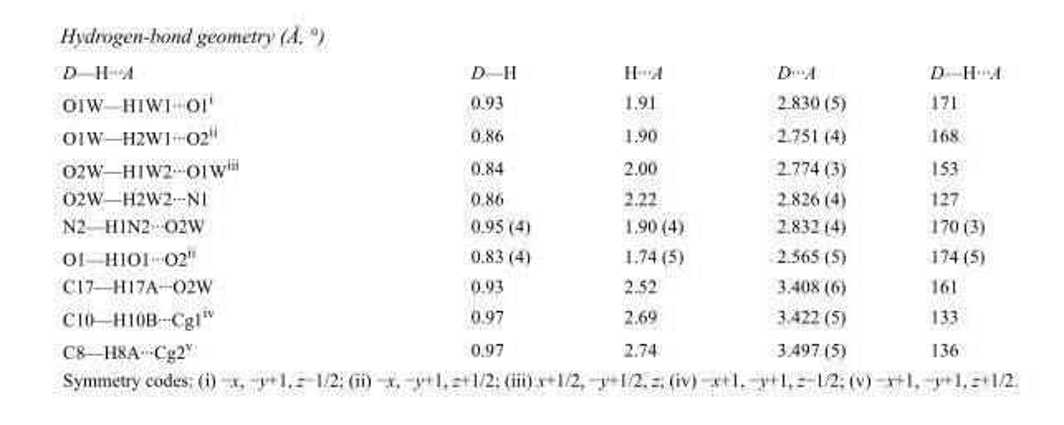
<table><tbody><tr><td>D—H···A</td><td>D—H</td><td>H···A</td><td>D···A</td><td>D—H···A</td></tr><tr><td>O1W—H1W1···O1<sup>i</sup></td><td>0.93</td><td>1.91</td><td>2.830 (5)</td><td>171</td></tr><tr><td>O1W—H2W1···O2<sup>ii</sup></td><td>0.86</td><td>1.90</td><td>2.751 (4)</td><td>168</td></tr><tr><td>O2W—H1W2···O1W<sup>iii</sup></td><td>0.84</td><td>2.00</td><td>2.774 (3)</td><td>153</td></tr><tr><td>O2W—H2W2···N1</td><td>0.86</td><td>2.22</td><td>2.826 (4)</td><td>127</td></tr><tr><td>N2—H1N2···O2W</td><td>0.95 (4)</td><td>1.90 (4)</td><td>2.832 (4)</td><td>170 (3)</td></tr><tr><td>O1—H1O1···O2<sup>ii</sup></td><td>0.83 (4)</td><td>1.74 (5)</td><td>2.565 (5)</td><td>174 (5)</td></tr><tr><td>C17—H17A···O2W</td><td>0.93</td><td>2.52</td><td>3.408 (6)</td><td>161</td></tr><tr><td>C10—H10B···Cg1<sup>iv</sup></td><td>0.97</td><td>2.69</td><td>3.422 (5)</td><td>133</td></tr><tr><td>C8—H8A···Cg2<sup>v</sup></td><td>0.97</td><td>2.74</td><td>3.497 (5)</td><td>136</td></tr></tbody></table>